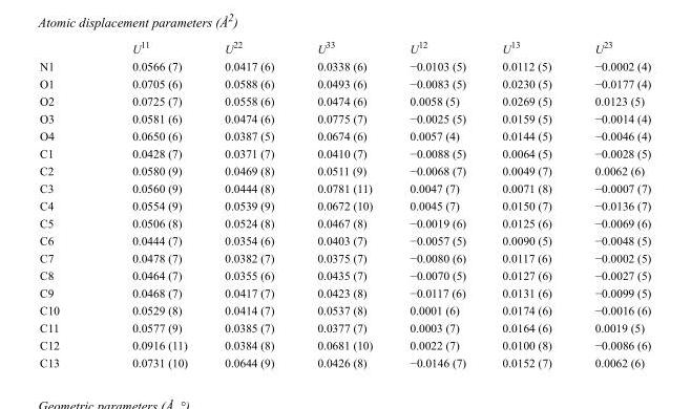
<table><thead><tr><td></td><td>U<sup>11</sup></td><td>U<sup>22</sup></td><td>U<sup>33</sup></td><td>U<sup>12</sup></td><td>U<sup>13</sup></td><td>U<sup>23</sup></td></tr></thead><tbody><tr><td>N1</td><td>0.0566 (7)</td><td>0.0417 (6)</td><td>0.0338 (6)</td><td>−0.0103 (5)</td><td>0.0112 (5)</td><td>−0.0002 (4)</td></tr><tr><td>O1</td><td>0.0705 (6)</td><td>0.0588 (6)</td><td>0.0493 (6)</td><td>−0.0083 (5)</td><td>0.0230 (5)</td><td>−0.0177 (4)</td></tr><tr><td>O2</td><td>0.0725 (7)</td><td>0.0558 (6)</td><td>0.0474 (6)</td><td>0.0058 (5)</td><td>0.0269 (5)</td><td>0.0123 (5)</td></tr><tr><td>O3</td><td>0.0581 (6)</td><td>0.0474 (6)</td><td>0.0775 (7)</td><td>−0.0025 (5)</td><td>0.0159 (5)</td><td>−0.0014 (4)</td></tr><tr><td>O4</td><td>0.0650 (6)</td><td>0.0387 (5)</td><td>0.0674 (6)</td><td>0.0057 (4)</td><td>0.0144 (5)</td><td>−0.0046 (4)</td></tr><tr><td>C1</td><td>0.0428 (7)</td><td>0.0371 (7)</td><td>0.0410 (7)</td><td>−0.0088 (5)</td><td>0.0064 (5)</td><td>−0.0028 (5)</td></tr><tr><td>C2</td><td>0.0580 (9)</td><td>0.0469 (8)</td><td>0.0511 (9)</td><td>−0.0068 (7)</td><td>0.0049 (7)</td><td>0.0062 (6)</td></tr><tr><td>C3</td><td>0.0560 (9)</td><td>0.0444 (8)</td><td>0.0781 (11)</td><td>0.0047 (7)</td><td>0.0071 (8)</td><td>−0.0007 (7)</td></tr><tr><td>C4</td><td>0.0554 (9)</td><td>0.0539 (9)</td><td>0.0672 (10)</td><td>0.0045 (7)</td><td>0.0150 (7)</td><td>−0.0136 (7)</td></tr><tr><td>C5</td><td>0.0506 (8)</td><td>0.0524 (8)</td><td>0.0467 (8)</td><td>−0.0019 (6)</td><td>0.0125 (6)</td><td>−0.0069 (6)</td></tr><tr><td>C6</td><td>0.0444 (7)</td><td>0.0354 (6)</td><td>0.0403 (7)</td><td>−0.0057 (5)</td><td>0.0090 (5)</td><td>−0.0048 (5)</td></tr><tr><td>C7</td><td>0.0478 (7)</td><td>0.0382 (7)</td><td>0.0375 (7)</td><td>−0.0080 (6)</td><td>0.0117 (6)</td><td>−0.0002 (5)</td></tr><tr><td>C8</td><td>0.0464 (7)</td><td>0.0355 (6)</td><td>0.0435 (7)</td><td>−0.0070 (5)</td><td>0.0127 (6)</td><td>−0.0027 (5)</td></tr><tr><td>C9</td><td>0.0468 (7)</td><td>0.0417 (7)</td><td>0.0423 (8)</td><td>−0.0117 (6)</td><td>0.0131 (6)</td><td>−0.0099 (5)</td></tr><tr><td>C10</td><td>0.0529 (8)</td><td>0.0414 (7)</td><td>0.0537 (8)</td><td>0.0001 (6)</td><td>0.0174 (6)</td><td>−0.0016 (6)</td></tr><tr><td>C11</td><td>0.0577 (9)</td><td>0.0385 (7)</td><td>0.0377 (7)</td><td>0.0003 (7)</td><td>0.0164 (6)</td><td>0.0019 (5)</td></tr><tr><td>C12</td><td>0.0916 (11)</td><td>0.0384 (8)</td><td>0.0681 (10)</td><td>0.0022 (7)</td><td>0.0100 (8)</td><td>−0.0086 (6)</td></tr><tr><td>C13</td><td>0.0731 (10)</td><td>0.0644 (9)</td><td>0.0426 (8)</td><td>−0.0146 (7)</td><td>0.0152 (7)</td><td>0.0062 (6)</td></tr></tbody></table>